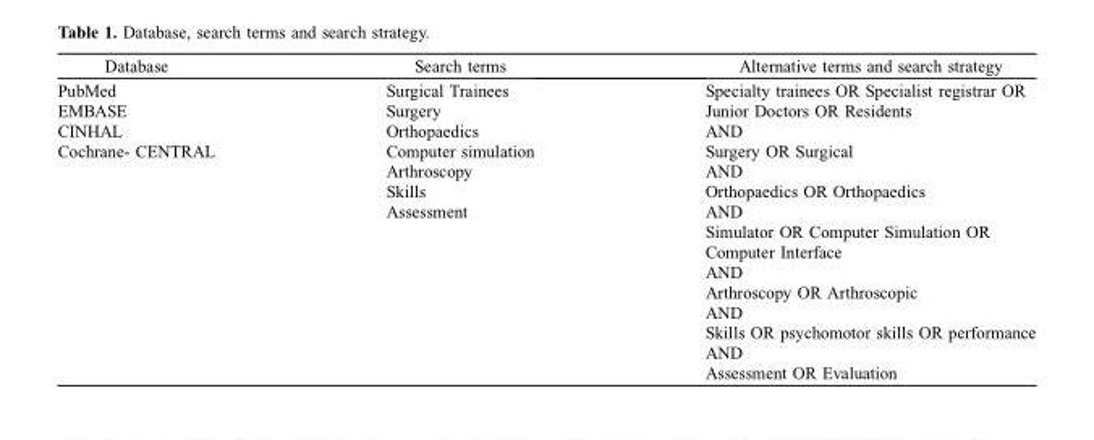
<table><thead><tr><td>Database</td><td>Search terms</td><td>Alternative terms and search strategy</td></tr></thead><tbody><tr><td>PubMed EMBASE CINHAL Cochrane- CENTRAL</td><td>Surgical Trainees Surgery Orthopaedics Computer simulation Arthroscopy Skills Assessment</td><td>Specialty trainees OR Specialist registrar OR Junior Doctors OR Residents AND Surgery OR Surgical AND Orthopaedics OR Orthopaedics AND Simulator OR Computer Simulation OR Computer Interface AND Arthroscopy OR Arthroscopic AND Skills OR psychomotor skills OR performance AND Assessment OR Evaluation</td></tr></tbody></table>